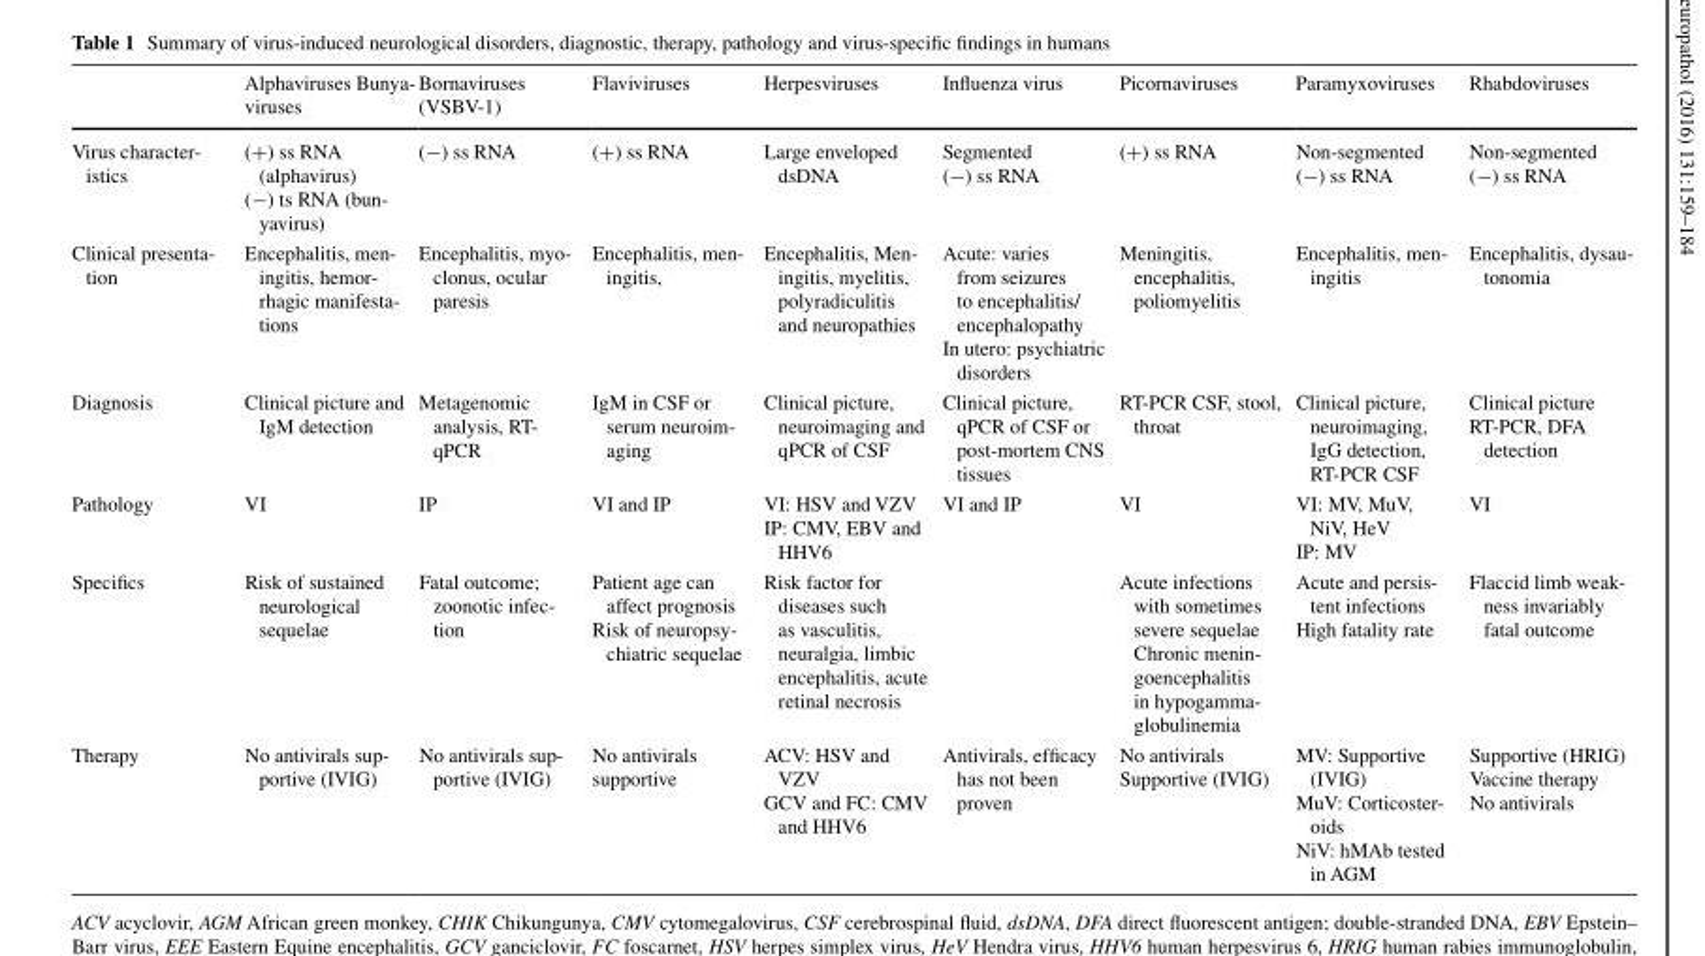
<table><thead><tr><td></td><td>Alphaviruses Bunya- viruses</td><td>Bornaviruses (VSBV-1)</td><td>Flaviviruses</td><td>Herpesviruses</td><td>Influenza virus</td><td>Picornaviruses</td><td>Paramyxoviruses</td><td>Rhabdoviruses</td></tr></thead><tbody><tr><td>Virus character- istics</td><td>(+) ss RNA (alphavirus) (−) ts RNA (bun- yavirus)</td><td>(−) ss RNA</td><td>(+) ss RNA</td><td>Large enveloped dsDNA</td><td>Segmented (−) ss RNA</td><td>(+) ss RNA</td><td>Non-segmented (−) ss RNA</td><td>Non-segmented (−) ss RNA</td></tr><tr><td>Clinical presenta- tion</td><td>Encephalitis, men- ingitis, hemor- rhagic manifesta- tions</td><td>Encephalitis, myo- clonus, ocular paresis</td><td>Encephalitis, men- ingitis,</td><td>Encephalitis, Men- ingitis, myelitis, polyradiculitis and neuropathies</td><td>Acute: varies from seizures to encephalitis/ encephalopathy In utero: psychiatric disorders</td><td>Meningitis, encephalitis, poliomyelitis</td><td>Encephalitis, men- ingitis</td><td>Encephalitis, dysau- tonomia</td></tr><tr><td>Diagnosis</td><td>Clinical picture and IgM detection</td><td>Metagenomic analysis, RT- qPCR</td><td>IgM in CSF or serum neuroim- aging</td><td>Clinical picture, neuroimaging and qPCR of CSF</td><td>Clinical picture, qPCR of CSF or post-mortem CNS tissues</td><td>RT-PCR CSF, stool, throat</td><td>Clinical picture, neuroimaging, IgG detection, RT-PCR CSF</td><td>Clinical picture RT-PCR, DFA detection</td></tr><tr><td>Pathology</td><td>VI</td><td>IP</td><td>VI and IP</td><td>VI: HSV and VZV IP: CMV, EBV and HHV6</td><td>VI and IP</td><td>VI</td><td>VI: MV, MuV, NiV, HeV IP: MV</td><td>VI</td></tr><tr><td>Specifics</td><td>Risk of sustained neurological sequelae</td><td>Fatal outcome; zoonotic infec- tion</td><td>Patient age can affect prognosis Risk of neuropsy- chiatric sequelae</td><td>Risk factor for diseases such as vasculitis, neuralgia, limbic encephalitis, acute retinal necrosis</td><td></td><td>Acute infections with sometimes severe sequelae Chronic menin- goencephalitis in hypogamma- globulinemia</td><td>Acute and persis- tent infections High fatality rate</td><td>Flaccid limb weak- ness invariably fatal outcome</td></tr><tr><td>Therapy</td><td>No antivirals sup- portive (IVIG)</td><td>No antivirals sup- portive (IVIG)</td><td>No antivirals supportive</td><td>ACV: HSV and VZV GCV and FC: CMV and HHV6</td><td>Antivirals, efficacy has not been proven</td><td>No antivirals Supportive (IVIG)</td><td>MV: Supportive (IVIG) MuV: Corticoster- oids NiV: hMAb tested in AGM</td><td>Supportive (HRIG) Vaccine therapy No antivirals</td></tr></tbody></table>